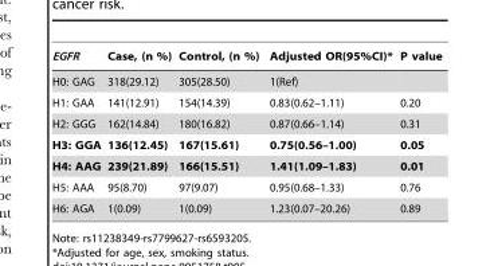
<table><thead><tr><td>EGFR</td><td>Case, (n %)</td><td>Control, (n %)</td><td>Adjusted OR(95%CI)*</td><td>P value</td></tr></thead><tbody><tr><td>H0: GAG</td><td>318(29.12)</td><td>305(28.50)</td><td>1(Ref)</td><td></td></tr><tr><td>H1: GAA</td><td>141(12.91)</td><td>154(14.39)</td><td>0.83(0.62–1.11)</td><td>0.20</td></tr><tr><td>H2: GGG</td><td>162(14.84)</td><td>180(16.82)</td><td>0.87(0.66–1.14)</td><td>0.31</td></tr><tr><td>H3: GGA</td><td>136(12.45)</td><td>167(15.61)</td><td>0.75(0.56–1.00)</td><td>0.05</td></tr><tr><td>H4: AAG</td><td>239(21.89)</td><td>166(15.51)</td><td>1.41(1.09–1.83)</td><td>0.01</td></tr><tr><td>H5: AAA</td><td>95(8.70)</td><td>97(9.07)</td><td>0.95(0.68–1.33)</td><td>0.76</td></tr><tr><td>H6: AGA</td><td>1(0.09)</td><td>1(0.09)</td><td>1.23(0.07–20.26)</td><td>0.89</td></tr></tbody></table>